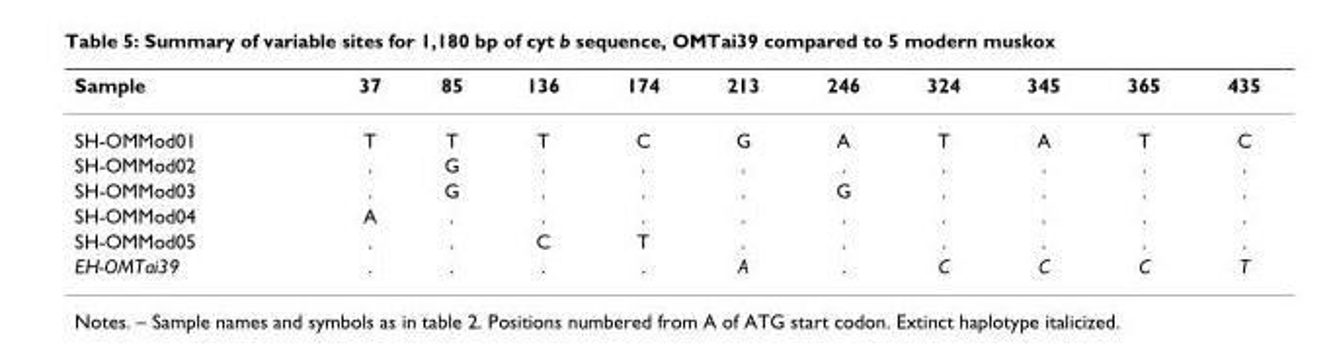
<table><thead><tr><td>Sample</td><td>37</td><td>85</td><td>136</td><td>174</td><td>213</td><td>246</td><td>324</td><td>345</td><td>365</td><td>435</td></tr></thead><tbody><tr><td>SH-OMMod01</td><td>T</td><td>T</td><td>T</td><td>C</td><td>G</td><td>A</td><td>T</td><td>A</td><td>T</td><td>C</td></tr><tr><td>SH-OMMod02</td><td>.</td><td>G</td><td>.</td><td>.</td><td>.</td><td>.</td><td>.</td><td>.</td><td>.</td><td>.</td></tr><tr><td>SH-OMMod03</td><td>.</td><td>G</td><td>.</td><td>.</td><td>.</td><td>G</td><td>.</td><td>.</td><td>.</td><td>.</td></tr><tr><td>SH-OMMod04</td><td>A</td><td>.</td><td>.</td><td>.</td><td>.</td><td>.</td><td>.</td><td>.</td><td>.</td><td>.</td></tr><tr><td>SH-OMMod05</td><td>.</td><td>.</td><td>C</td><td>T</td><td>.</td><td>.</td><td>.</td><td>.</td><td>.</td><td>.</td></tr><tr><td>EH-OMTai39</td><td>.</td><td>.</td><td>.</td><td>.</td><td>A</td><td>.</td><td>C</td><td>C</td><td>C</td><td>T</td></tr></tbody></table>